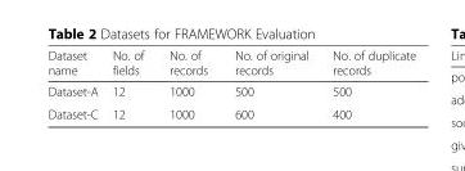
<table><thead><tr><td>Dataset name</td><td>No. of fields</td><td>No. of records</td><td>No. of original records</td><td>No. of duplicate records</td></tr></thead><tbody><tr><td>Dataset-A</td><td>12</td><td>1000</td><td>500</td><td>500</td></tr><tr><td>Dataset-C</td><td>12</td><td>1000</td><td>600</td><td>400</td></tr></tbody></table>